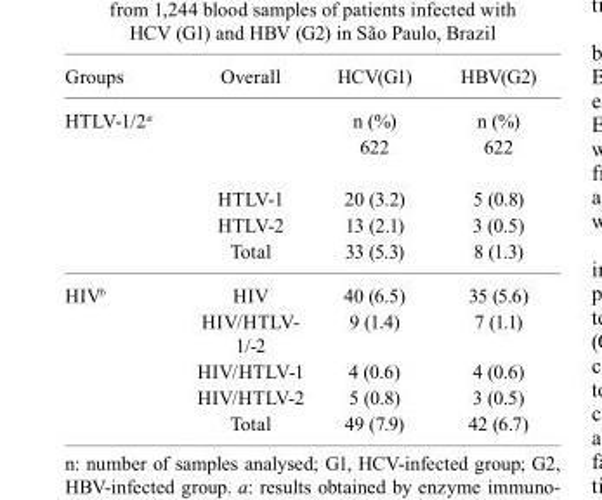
<table><thead><tr><td>Groups</td><td>Overall</td><td>HCV(G1)</td><td>HBV(G2)</td></tr></thead><tbody><tr><td rowspan="5">HTLV-1/2<sup>a</sup></td><td></td><td>n (%)</td><td>n (%)</td></tr><tr><td></td><td>622</td><td>622</td></tr><tr><td>HTLV-1</td><td>20 (3.2)</td><td>5 (0.8)</td></tr><tr><td>HTLV-2</td><td>13 (2.1)</td><td>3 (0.5)</td></tr><tr><td>Total</td><td>33 (5.3)</td><td>8 (1.3)</td></tr><tr><td rowspan="5">HIV<sup>b</sup></td><td>HIV</td><td>40 (6.5)</td><td>35 (5.6)</td></tr><tr><td>HIV/HTLV- 1/-2</td><td>9 (1.4)</td><td>7 (1.1)</td></tr><tr><td>HIV/HTLV-1</td><td>4 (0.6)</td><td>4 (0.6)</td></tr><tr><td>HIV/HTLV-2</td><td>5 (0.8)</td><td>3 (0.5)</td></tr><tr><td>Total</td><td>49 (7.9)</td><td>42 (6.7)</td></tr></tbody></table>